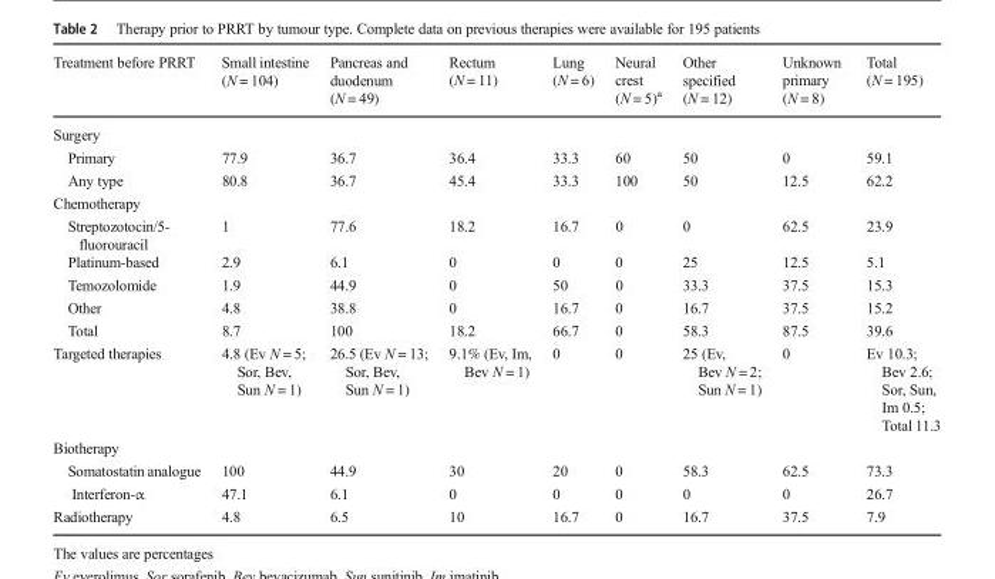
<table><thead><tr><td>Treatment before PRRT</td><td>Small intestine (N = 104)</td><td>Pancreas and duodenum (N = 49)</td><td>Rectum (N = 11)</td><td>Lung (N = 6)</td><td>Neural crest (N = 5)<sup>a</sup></td><td>Other specified (N = 12)</td><td>Unknown primary (N = 8)</td><td>Total (N = 195)</td></tr></thead><tbody><tr><td colspan="9">Surgery</td></tr><tr><td>Primary</td><td>77.9</td><td>36.7</td><td>36.4</td><td>33.3</td><td>60</td><td>50</td><td>0</td><td>59.1</td></tr><tr><td>Any type</td><td>80.8</td><td>36.7</td><td>45.4</td><td>33.3</td><td>100</td><td>50</td><td>12.5</td><td>62.2</td></tr><tr><td colspan="9">Chemotherapy</td></tr><tr><td>Streptozotocin/5- fluorouracil</td><td>1</td><td>77.6</td><td>18.2</td><td>16.7</td><td>0</td><td>0</td><td>62.5</td><td>23.9</td></tr><tr><td>Platinum-based</td><td>2.9</td><td>6.1</td><td>0</td><td>0</td><td>0</td><td>25</td><td>12.5</td><td>5.1</td></tr><tr><td>Temozolomide</td><td>1.9</td><td>44.9</td><td>0</td><td>50</td><td>0</td><td>33.3</td><td>37.5</td><td>15.3</td></tr><tr><td>Other</td><td>4.8</td><td>38.8</td><td>0</td><td>16.7</td><td>0</td><td>16.7</td><td>37.5</td><td>15.2</td></tr><tr><td>Total</td><td>8.7</td><td>100</td><td>18.2</td><td>66.7</td><td>0</td><td>58.3</td><td>87.5</td><td>39.6</td></tr><tr><td>Targeted therapies</td><td>4.8 (Ev N = 5; Sor, Bev, Sun N = 1)</td><td>26.5 (Ev N = 13; Sor, Bev, Sun N = 1)</td><td>9.1% (Ev, Im, Bev N = 1)</td><td>0</td><td>0</td><td>25 (Ev, Bev N = 2; Sun N = 1)</td><td>0</td><td>Ev 10.3; Bev 2.6; Sor, Sun, Im 0.5; Total 11.3</td></tr><tr><td colspan="9">Biotherapy</td></tr><tr><td>Somatostatin analogue</td><td>100</td><td>44.9</td><td>30</td><td>20</td><td>0</td><td>58.3</td><td>62.5</td><td>73.3</td></tr><tr><td>Interferon-α</td><td>47.1</td><td>6.1</td><td>0</td><td>0</td><td>0</td><td>0</td><td>0</td><td>26.7</td></tr><tr><td>Radiotherapy</td><td>4.8</td><td>6.5</td><td>10</td><td>16.7</td><td>0</td><td>16.7</td><td>37.5</td><td>7.9</td></tr></tbody></table>